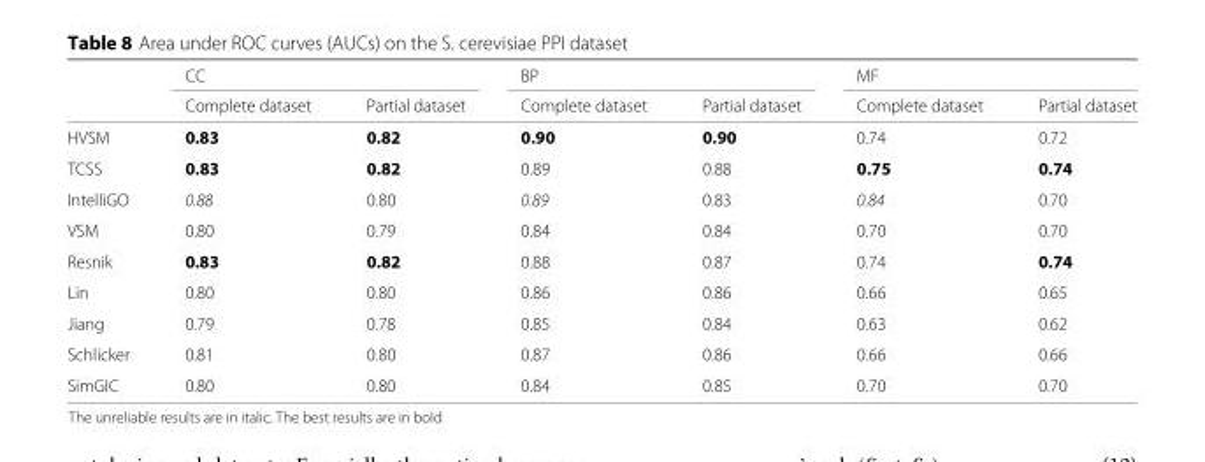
<table><thead><tr><td rowspan="2"></td><td colspan="2">CC</td><td colspan="2">BP</td><td colspan="2">MF</td></tr><tr><td>Complete dataset</td><td>Partial dataset</td><td>Complete dataset</td><td>Partial dataset</td><td>Complete dataset</td><td>Partial dataset</td></tr></thead><tbody><tr><td>HVSM</td><td>0.83</td><td>0.82</td><td>0.90</td><td>0.90</td><td>0.74</td><td>0.72</td></tr><tr><td>TCSS</td><td>0.83</td><td>0.82</td><td>0.89</td><td>0.88</td><td>0.75</td><td>0.74</td></tr><tr><td>IntelliGO</td><td>0.88</td><td>0.80</td><td>0.89</td><td>0.83</td><td>0.84</td><td>0.70</td></tr><tr><td>VSM</td><td>0.80</td><td>0.79</td><td>0.84</td><td>0.84</td><td>0.70</td><td>0.70</td></tr><tr><td>Resnik</td><td>0.83</td><td>0.82</td><td>0.88</td><td>0.87</td><td>0.74</td><td>0.74</td></tr><tr><td>Lin</td><td>0.80</td><td>0.80</td><td>0.86</td><td>0.86</td><td>0.66</td><td>0.65</td></tr><tr><td>Jiang</td><td>0.79</td><td>0.78</td><td>0.85</td><td>0.84</td><td>0.63</td><td>0.62</td></tr><tr><td>Schlicker</td><td>0.81</td><td>0.80</td><td>0.87</td><td>0.86</td><td>0.66</td><td>0.66</td></tr><tr><td>SimGIC</td><td>0.80</td><td>0.80</td><td>0.84</td><td>0.85</td><td>0.70</td><td>0.70</td></tr></tbody></table>